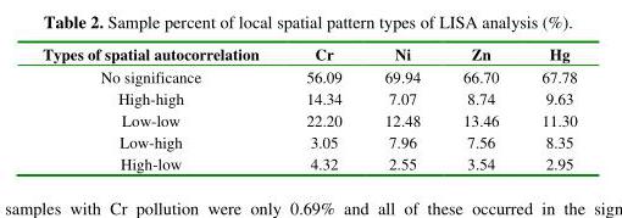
<table><thead><tr><td>Types of spatial autocorrelation</td><td>Cr</td><td>Ni</td><td>Zn</td><td>Hg</td></tr></thead><tbody><tr><td>No significance</td><td>56.09</td><td>69.94</td><td>66.70</td><td>67.78</td></tr><tr><td>High-high</td><td>14.34</td><td>7.07</td><td>8.74</td><td>9.63</td></tr><tr><td>Low-low</td><td>22.20</td><td>12.48</td><td>13.46</td><td>11.30</td></tr><tr><td>Low-high</td><td>3.05</td><td>7.96</td><td>7.56</td><td>8.35</td></tr><tr><td>High-low</td><td>4.32</td><td>2.55</td><td>3.54</td><td>2.95</td></tr></tbody></table>